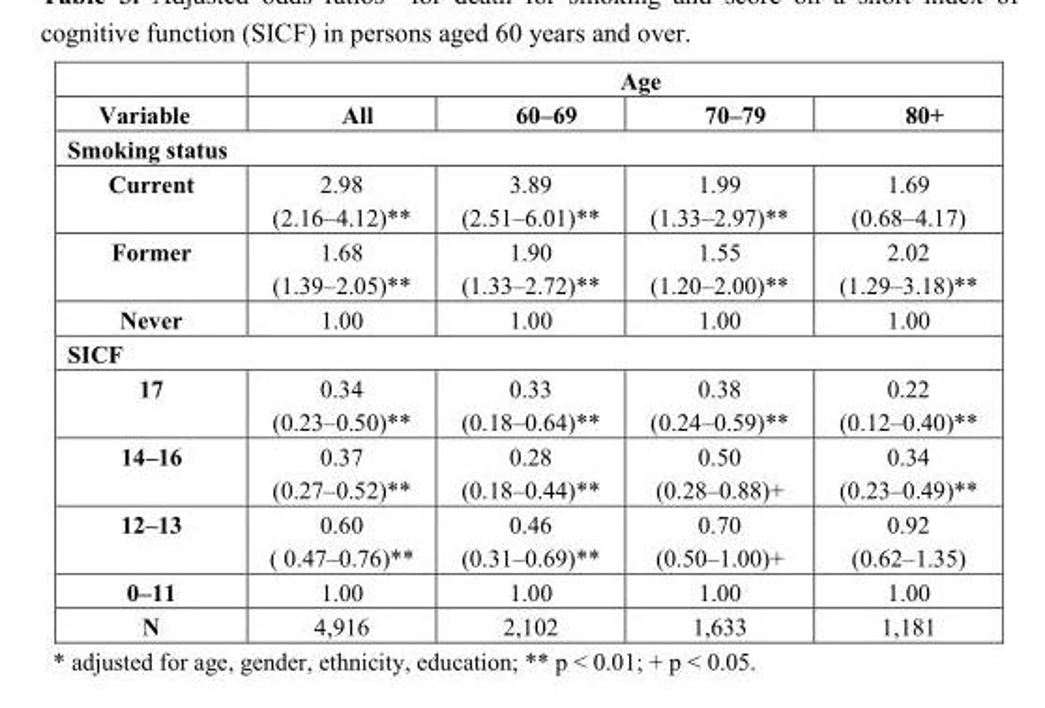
<table><thead><tr><td rowspan="2">Variable</td><td colspan="4">Age</td></tr><tr><td>All</td><td>60–69</td><td>70–79</td><td>80+</td></tr></thead><tbody><tr><td colspan="5">Smoking status</td></tr><tr><td>Current</td><td>2.98 (2.16–4.12)**</td><td>3.89 (2.51–6.01)**</td><td>1.99 (1.33–2.97)**</td><td>1.69 (0.68–4.17)</td></tr><tr><td>Former</td><td>1.68 (1.39–2.05)**</td><td>1.90 (1.33–2.72)**</td><td>1.55 (1.20–2.00)**</td><td>2.02 (1.29–3.18)**</td></tr><tr><td>Never</td><td>1.00</td><td>1.00</td><td>1.00</td><td>1.00</td></tr><tr><td colspan="5">SICF</td></tr><tr><td>17</td><td>0.34 (0.23–0.50)**</td><td>0.33 (0.18–0.64)**</td><td>0.38 (0.24–0.59)**</td><td>0.22 (0.12–0.40)**</td></tr><tr><td>14–16</td><td>0.37 (0.27–0.52)**</td><td>0.28 (0.18–0.44)**</td><td>0.50 (0.28–0.88)+</td><td>0.34 (0.23–0.49)**</td></tr><tr><td>12–13</td><td>0.60 ( 0.47–0.76)**</td><td>0.46 (0.31–0.69)**</td><td>0.70 (0.50–1.00)+</td><td>0.92 (0.62–1.35)</td></tr><tr><td>0–11</td><td>1.00</td><td>1.00</td><td>1.00</td><td>1.00</td></tr><tr><td>N</td><td>4,916</td><td>2,102</td><td>1,633</td><td>1,181</td></tr></tbody></table>